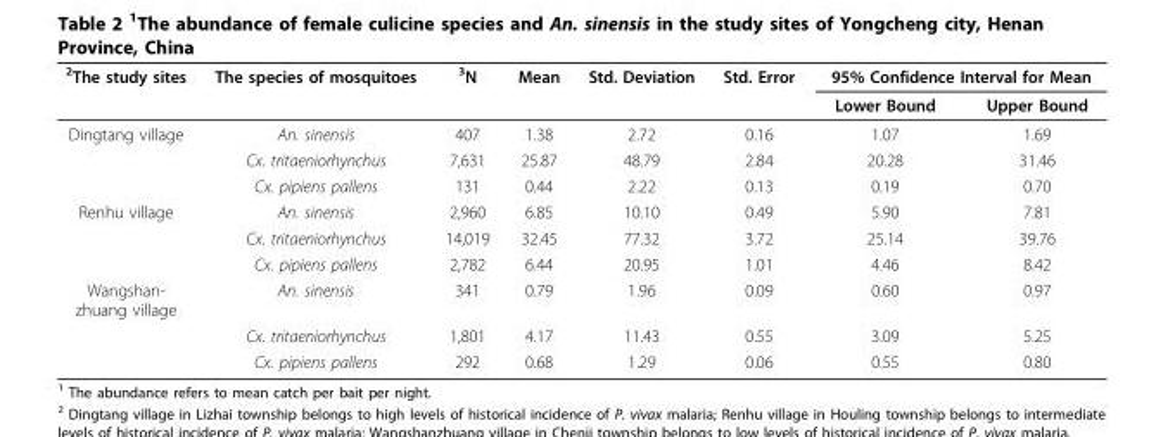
<table><thead><tr><td rowspan="2"><sup>2</sup>The study sites</td><td rowspan="2">The species of mosquitoes</td><td rowspan="2"><sup>3</sup>N</td><td rowspan="2">Mean</td><td rowspan="2">Std. Deviation</td><td rowspan="2">Std. Error</td><td colspan="2">95% Confidence Interval for Mean</td></tr><tr><td>Lower Bound</td><td>Upper Bound</td></tr></thead><tbody><tr><td rowspan="3">Dingtang village</td><td>An. sinensis</td><td>407</td><td>1.38</td><td>2.72</td><td>0.16</td><td>1.07</td><td>1.69</td></tr><tr><td>Cx. tritaeniorhynchus</td><td>7,631</td><td>25.87</td><td>48.79</td><td>2.84</td><td>20.28</td><td>31.46</td></tr><tr><td>Cx. pipiens pallens</td><td>131</td><td>0.44</td><td>2.22</td><td>0.13</td><td>0.19</td><td>0.70</td></tr><tr><td rowspan="3">Renhu village</td><td>An. sinensis</td><td>2,960</td><td>6.85</td><td>10.10</td><td>0.49</td><td>5.90</td><td>7.81</td></tr><tr><td>Cx. tritaeniorhynchus</td><td>14,019</td><td>32.45</td><td>77.32</td><td>3.72</td><td>25.14</td><td>39.76</td></tr><tr><td>Cx. pipiens pallens</td><td>2,782</td><td>6.44</td><td>20.95</td><td>1.01</td><td>4.46</td><td>8.42</td></tr><tr><td rowspan="3">Wangshan- zhuang village</td><td>An. sinensis</td><td>341</td><td>0.79</td><td>1.96</td><td>0.09</td><td>0.60</td><td>0.97</td></tr><tr><td>Cx. tritaeniorhynchus</td><td>1,801</td><td>4.17</td><td>11.43</td><td>0.55</td><td>3.09</td><td>5.25</td></tr><tr><td>Cx. pipiens pallens</td><td>292</td><td>0.68</td><td>1.29</td><td>0.06</td><td>0.55</td><td>0.80</td></tr></tbody></table>